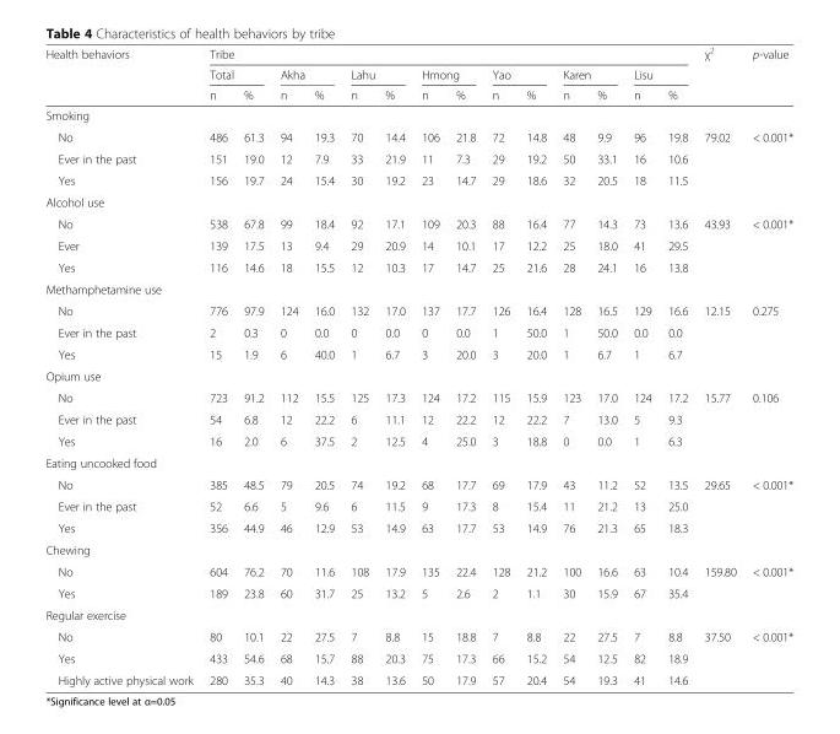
<table><thead><tr><td rowspan="3">Health behaviors</td><td colspan="14">Tribe</td><td rowspan="3">χ<sup>2</sup></td><td rowspan="3">p-value</td></tr><tr><td colspan="2">Total</td><td colspan="2">Akha</td><td colspan="2">Lahu</td><td colspan="2">Hmong</td><td colspan="2">Yao</td><td colspan="2">Karen</td><td colspan="2">Lisu</td></tr><tr><td>n</td><td>%</td><td>n</td><td>%</td><td>n</td><td>%</td><td>n</td><td>%</td><td>n</td><td>%</td><td>n</td><td>%</td><td>n</td><td>%</td></tr></thead><tbody><tr><td colspan="17">Smoking</td></tr><tr><td>No</td><td>486</td><td>61.3</td><td>94</td><td>19.3</td><td>70</td><td>14.4</td><td>106</td><td>21.8</td><td>72</td><td>14.8</td><td>48</td><td>9.9</td><td>96</td><td>19.8</td><td>79.02</td><td>&lt; 0.001*</td></tr><tr><td>Ever in the past</td><td>151</td><td>19.0</td><td>12</td><td>7.9</td><td>33</td><td>21.9</td><td>11</td><td>7.3</td><td>29</td><td>19.2</td><td>50</td><td>33.1</td><td>16</td><td>10.6</td><td></td><td></td></tr><tr><td>Yes</td><td>156</td><td>19.7</td><td>24</td><td>15.4</td><td>30</td><td>19.2</td><td>23</td><td>14.7</td><td>29</td><td>18.6</td><td>32</td><td>20.5</td><td>18</td><td>11.5</td><td></td><td></td></tr><tr><td colspan="17">Alcohol use</td></tr><tr><td>No</td><td>538</td><td>67.8</td><td>99</td><td>18.4</td><td>92</td><td>17.1</td><td>109</td><td>20.3</td><td>88</td><td>16.4</td><td>77</td><td>14.3</td><td>73</td><td>13.6</td><td>43.93</td><td>&lt; 0.001*</td></tr><tr><td>Ever</td><td>139</td><td>17.5</td><td>13</td><td>9.4</td><td>29</td><td>20.9</td><td>14</td><td>10.1</td><td>17</td><td>12.2</td><td>25</td><td>18.0</td><td>41</td><td>29.5</td><td></td><td></td></tr><tr><td>Yes</td><td>116</td><td>14.6</td><td>18</td><td>15.5</td><td>12</td><td>10.3</td><td>17</td><td>14.7</td><td>25</td><td>21.6</td><td>28</td><td>24.1</td><td>16</td><td>13.8</td><td></td><td></td></tr><tr><td colspan="17">Methamphetamine use</td></tr><tr><td>No</td><td>776</td><td>97.9</td><td>124</td><td>16.0</td><td>132</td><td>17.0</td><td>137</td><td>17.7</td><td>126</td><td>16.4</td><td>128</td><td>16.5</td><td>129</td><td>16.6</td><td>12.15</td><td>0.275</td></tr><tr><td>Ever in the past</td><td>2</td><td>0.3</td><td>0</td><td>0.0</td><td>0</td><td>0.0</td><td>0</td><td>0.0</td><td>1</td><td>50.0</td><td>1</td><td>50.0</td><td>0.0</td><td>0.0</td><td></td><td></td></tr><tr><td>Yes</td><td>15</td><td>1.9</td><td>6</td><td>40.0</td><td>1</td><td>6.7</td><td>3</td><td>20.0</td><td>3</td><td>20.0</td><td>1</td><td>6.7</td><td>1</td><td>6.7</td><td></td><td></td></tr><tr><td colspan="17">Opium use</td></tr><tr><td>No</td><td>723</td><td>91.2</td><td>112</td><td>15.5</td><td>125</td><td>17.3</td><td>124</td><td>17.2</td><td>115</td><td>15.9</td><td>123</td><td>17.0</td><td>124</td><td>17.2</td><td>15.77</td><td>0.106</td></tr><tr><td>Ever in the past</td><td>54</td><td>6.8</td><td>12</td><td>22.2</td><td>6</td><td>11.1</td><td>12</td><td>22.2</td><td>12</td><td>22.2</td><td>7</td><td>13.0</td><td>5</td><td>9.3</td><td></td><td></td></tr><tr><td>Yes</td><td>16</td><td>2.0</td><td>6</td><td>37.5</td><td>2</td><td>12.5</td><td>4</td><td>25.0</td><td>3</td><td>18.8</td><td>0</td><td>0.0</td><td>1</td><td>6.3</td><td></td><td></td></tr><tr><td colspan="17">Eating uncooked food</td></tr><tr><td>No</td><td>385</td><td>48.5</td><td>79</td><td>20.5</td><td>74</td><td>19.2</td><td>68</td><td>17.7</td><td>69</td><td>17.9</td><td>43</td><td>11.2</td><td>52</td><td>13.5</td><td>29.65</td><td>&lt; 0.001*</td></tr><tr><td>Ever in the past</td><td>52</td><td>6.6</td><td>5</td><td>9.6</td><td>6</td><td>11.5</td><td>9</td><td>17.3</td><td>8</td><td>15.4</td><td>11</td><td>21.2</td><td>13</td><td>25.0</td><td></td><td></td></tr><tr><td>Yes</td><td>356</td><td>44.9</td><td>46</td><td>12.9</td><td>53</td><td>14.9</td><td>63</td><td>17.7</td><td>53</td><td>14.9</td><td>76</td><td>21.3</td><td>65</td><td>18.3</td><td></td><td></td></tr><tr><td colspan="17">Chewing</td></tr><tr><td>No</td><td>604</td><td>76.2</td><td>70</td><td>11.6</td><td>108</td><td>17.9</td><td>135</td><td>22.4</td><td>128</td><td>21.2</td><td>100</td><td>16.6</td><td>63</td><td>10.4</td><td>159.80</td><td>&lt; 0.001*</td></tr><tr><td>Yes</td><td>189</td><td>23.8</td><td>60</td><td>31.7</td><td>25</td><td>13.2</td><td>5</td><td>2.6</td><td>2</td><td>1.1</td><td>30</td><td>15.9</td><td>67</td><td>35.4</td><td></td><td></td></tr><tr><td colspan="17">Regular exercise</td></tr><tr><td>No</td><td>80</td><td>10.1</td><td>22</td><td>27.5</td><td>7</td><td>8.8</td><td>15</td><td>18.8</td><td>7</td><td>8.8</td><td>22</td><td>27.5</td><td>7</td><td>8.8</td><td>37.50</td><td>&lt; 0.001*</td></tr><tr><td>Yes</td><td>433</td><td>54.6</td><td>68</td><td>15.7</td><td>88</td><td>20.3</td><td>75</td><td>17.3</td><td>66</td><td>15.2</td><td>54</td><td>12.5</td><td>82</td><td>18.9</td><td></td><td></td></tr><tr><td>Highly active physical work</td><td>280</td><td>35.3</td><td>40</td><td>14.3</td><td>38</td><td>13.6</td><td>50</td><td>17.9</td><td>57</td><td>20.4</td><td>54</td><td>19.3</td><td>41</td><td>14.6</td><td></td><td></td></tr></tbody></table>